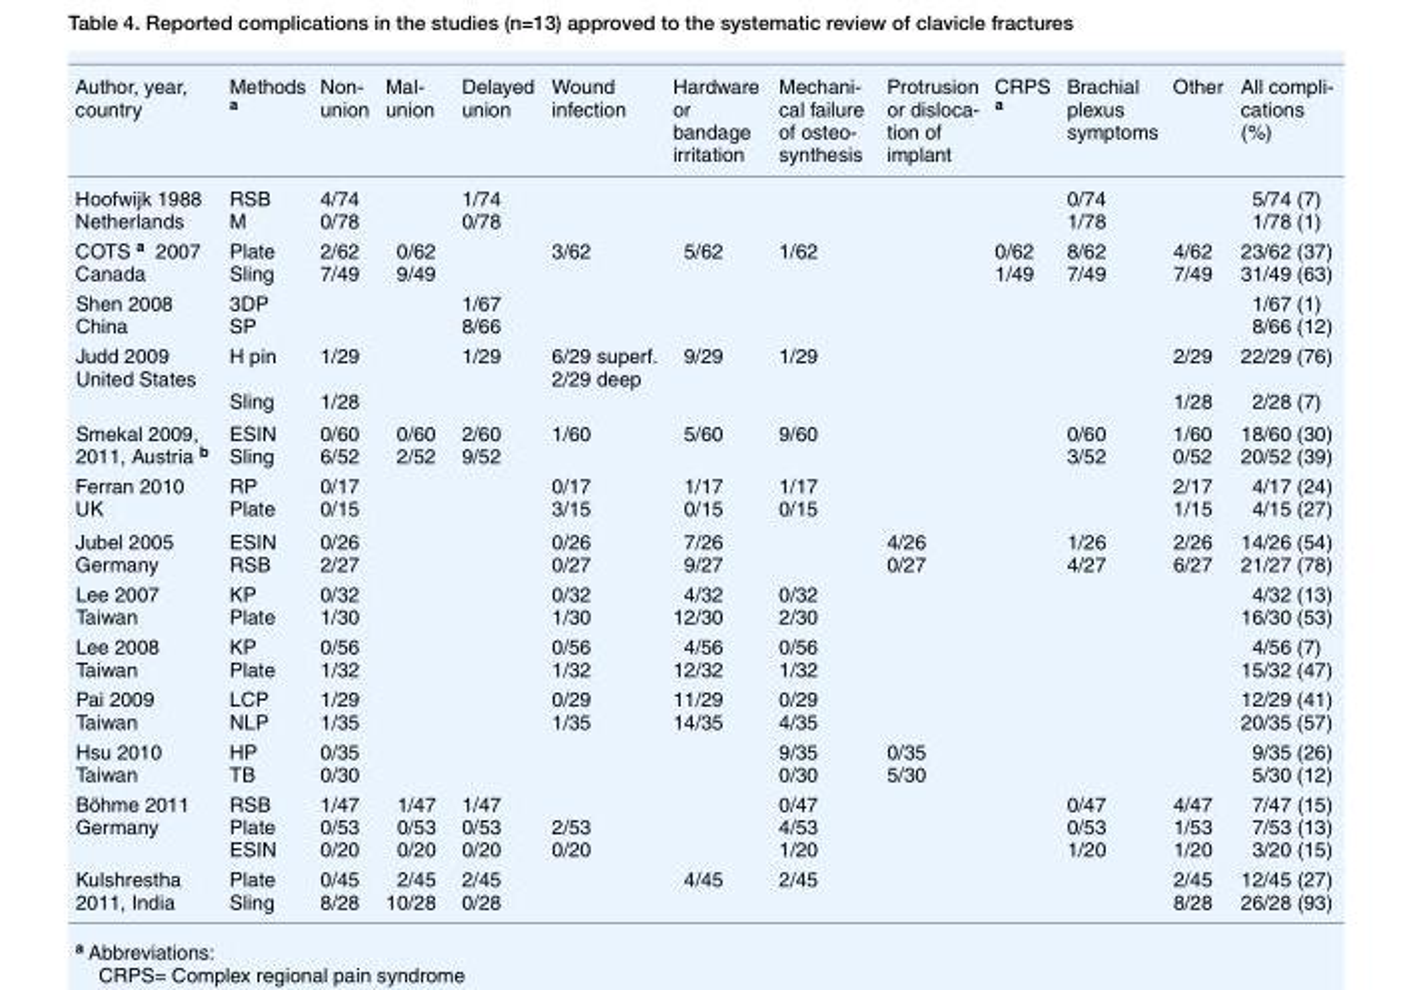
<table><thead><tr><td>Author, year, country</td><td>Methods <sup>a</sup></td><td>Non- union</td><td>Mal- union</td><td>Delayed union</td><td>Wound infection</td><td>Hardware or bandage irritation</td><td>Mechani- cal failure of osteo- synthesis</td><td>Protrusion or disloca- tion of implant</td><td>CRPS <sup>a</sup></td><td>Brachial plexus symptoms</td><td>Other</td><td>All compli- cations (%)</td></tr></thead><tbody><tr><td>Hoofwijk 1988 Netherlands</td><td>RSB M</td><td>4/74 0/78</td><td></td><td>1/74 0/78</td><td></td><td></td><td></td><td></td><td></td><td>0/74 1/78</td><td></td><td>5/74 (7) 1/78 (1)</td></tr><tr><td>COTS <sup>a</sup> 2007 Canada</td><td>Plate Sling</td><td>2/62 7/49</td><td>0/62 9/49</td><td></td><td>3/62</td><td>5/62</td><td>1/62</td><td></td><td>0/62 1/49</td><td>8/62 7/49</td><td>4/62 7/49</td><td>23/62 (37) 31/49 (63)</td></tr><tr><td>Shen 2008 China</td><td>3DP SP</td><td></td><td></td><td>1/67 8/66</td><td></td><td></td><td></td><td></td><td></td><td></td><td></td><td>1/67 (1) 8/66 (12)</td></tr><tr><td>Judd 2009 United States</td><td>H pin Sling</td><td>1/29 1/28</td><td></td><td>1/29</td><td>6/29 superf. 2/29 deep</td><td>9/29</td><td>1/29</td><td></td><td></td><td></td><td>2/29 1/28</td><td>22/29 (76) 2/28 (7)</td></tr><tr><td>Smekal 2009, 2011, Austria <sup>b</sup></td><td>ESIN Sling</td><td>0/60 6/52</td><td>0/60 2/52</td><td>2/60 9/52</td><td>1/60</td><td>5/60</td><td>9/60</td><td></td><td></td><td>0/60 3/52</td><td>1/60 0/52</td><td>18/60 (30) 20/52 (39)</td></tr><tr><td>Ferran 2010 UK</td><td>RP Plate</td><td>0/17 0/15</td><td></td><td></td><td>0/17 3/15</td><td>1/17 0/15</td><td>1/17 0/15</td><td></td><td></td><td></td><td>2/17 1/15</td><td>4/17 (24) 4/15 (27)</td></tr><tr><td>Jubel 2005 Germany</td><td>ESIN RSB</td><td>0/26 2/27</td><td></td><td></td><td>0/26 0/27</td><td>7/26 9/27</td><td></td><td>4/26 0/27</td><td></td><td>1/26 4/27</td><td>2/26 6/27</td><td>14/26 (54) 21/27 (78)</td></tr><tr><td>Lee 2007 Taiwan</td><td>KP Plate</td><td>0/32 1/30</td><td></td><td></td><td>0/32 1/30</td><td>4/32 12/30</td><td>0/32 2/30</td><td></td><td></td><td></td><td></td><td>4/32 (13) 16/30 (53)</td></tr><tr><td>Lee 2008 Taiwan</td><td>KP Plate</td><td>0/56 1/32</td><td></td><td></td><td>0/56 1/32</td><td>4/56 12/32</td><td>0/56 1/32</td><td></td><td></td><td></td><td></td><td>4/56 (7) 15/32 (47)</td></tr><tr><td>Pai 2009 Taiwan</td><td>LCP NLP</td><td>1/29 1/35</td><td></td><td></td><td>0/29 1/35</td><td>11/29 14/35</td><td>0/29 4/35</td><td></td><td></td><td></td><td></td><td>12/29 (41) 20/35 (57)</td></tr><tr><td>Hsu 2010 Taiwan</td><td>HP TB</td><td>0/35 0/30</td><td></td><td></td><td></td><td></td><td>9/35 0/30</td><td>0/35 5/30</td><td></td><td></td><td></td><td>9/35 (26) 5/30 (12)</td></tr><tr><td>Böhme 2011 Germany</td><td>RSB Plate ESIN</td><td>1/47 0/53 0/20</td><td>1/47 0/53 0/20</td><td>1/47 0/53 0/20</td><td>2/53 0/20</td><td></td><td>0/47 4/53 1/20</td><td></td><td></td><td>0/47 0/53 1/20</td><td>4/47 1/53 1/20</td><td>7/47 (15) 7/53 (13) 3/20 (15)</td></tr><tr><td>Kulshrestha 2011, India</td><td>Plate Sling</td><td>0/45 8/28</td><td>2/45 10/28</td><td>2/45 0/28</td><td></td><td>4/45</td><td>2/45</td><td></td><td></td><td></td><td>2/45 8/28</td><td>12/45 (27) 26/28 (93)</td></tr></tbody></table>